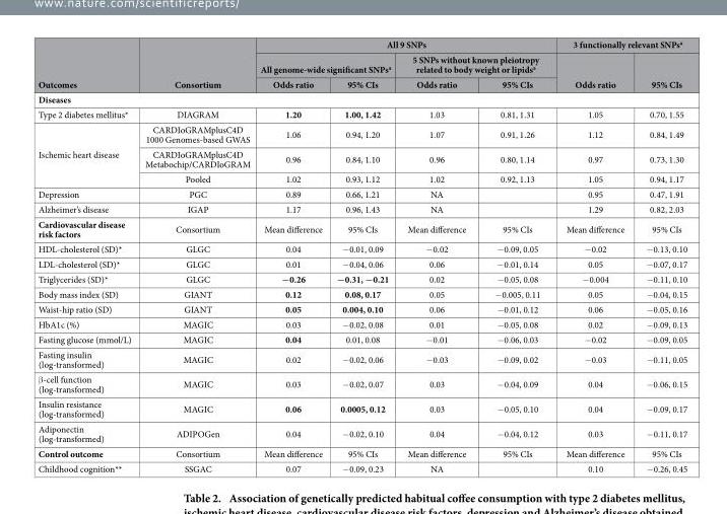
<table><thead><tr><td rowspan="3">Outcomes</td><td rowspan="3">Consortium</td><td colspan="4">All 9 SNPs</td><td colspan="2">3 functionally relevant SNPs<sup>a</sup></td></tr><tr><td colspan="2">All genome-wide significant SNPs<sup>a</sup></td><td colspan="2">5 SNPs without known pleiotropy related to body weight or lipids<sup>a</sup></td><td rowspan="2">Odds ratio</td><td rowspan="2">95% CIs</td></tr><tr><td>Odds ratio</td><td>95% CIs</td><td>Odds ratio</td><td>95% CIs</td></tr></thead><tbody><tr><td colspan="8">Diseases</td></tr><tr><td>Type 2 diabetes mellitus*</td><td>DIAGRAM</td><td>1.20</td><td>1.00, 1.42</td><td>1.03</td><td>0.81, 1.31</td><td>1.05</td><td>0.70, 1.55</td></tr><tr><td rowspan="3">Ischemic heart disease</td><td>CARDIoGRAMplusC4D 1000 Genomes-based GWAS</td><td>1.06</td><td>0.94, 1.20</td><td>1.07</td><td>0.91, 1.26</td><td>1.12</td><td>0.84, 1.49</td></tr><tr><td>CARDIoGRAMplusC4D Metabochip/CARDIoGRAM</td><td>0.96</td><td>0.84, 1.10</td><td>0.96</td><td>0.80, 1.14</td><td>0.97</td><td>0.73, 1.30</td></tr><tr><td>Pooled</td><td>1.02</td><td>0.93, 1.12</td><td>1.02</td><td>0.92, 1.13</td><td>1.05</td><td>0.94, 1.17</td></tr><tr><td>Depression</td><td>PGC</td><td>0.89</td><td>0.66, 1.21</td><td>NA</td><td></td><td>0.95</td><td>0.47, 1.91</td></tr><tr><td>Alzheimer’s disease</td><td>IGAP</td><td>1.17</td><td>0.96, 1.43</td><td>NA</td><td></td><td>1.29</td><td>0.82, 2.03</td></tr><tr><td>Cardiovascular disease risk factors</td><td>Consortium</td><td>Mean difference</td><td>95% CIs</td><td>Mean difference</td><td>95% CIs</td><td>Mean difference</td><td>95% CIs</td></tr><tr><td>HDL-cholesterol (SD)*</td><td>GLGC</td><td>0.04</td><td>− 0.01, 0.09</td><td>− 0.02</td><td>− 0.09, 0.05</td><td>− 0.02</td><td>− 0.13, 0.10</td></tr><tr><td>LDL-cholesterol (SD)*</td><td>GLGC</td><td>0.01</td><td>− 0.04, 0.06</td><td>0.06</td><td>− 0.01, 0.14</td><td>0.05</td><td>− 0.07, 0.17</td></tr><tr><td>Triglycerides (SD)*</td><td>GLGC</td><td>−0.26</td><td>−0.31, −0.21</td><td>0.02</td><td>− 0.05, 0.08</td><td>− 0.004</td><td>− 0.11, 0.10</td></tr><tr><td>Body mass index (SD)</td><td>GIANT</td><td>0.12</td><td>0.08, 0.17</td><td>0.05</td><td>− 0.005, 0.11</td><td>0.05</td><td>− 0.04, 0.15</td></tr><tr><td>Waist-hip ratio (SD)</td><td>GIANT</td><td>0.05</td><td>0.004, 0.10</td><td>0.06</td><td>− 0.01, 0.12</td><td>0.06</td><td>− 0.05, 0.16</td></tr><tr><td>HbA1c (%)</td><td>MAGIC</td><td>0.03</td><td>− 0.02, 0.08</td><td>0.01</td><td>− 0.05, 0.08</td><td>0.02</td><td>− 0.09, 0.13</td></tr><tr><td>Fasting glucose (mmol/L)</td><td>MAGIC</td><td>0.04</td><td>0.01, 0.08</td><td>− 0.01</td><td>− 0.06, 0.03</td><td>− 0.02</td><td>− 0.09, 0.05</td></tr><tr><td>Fasting insulin (log-transformed)</td><td>MAGIC</td><td>0.02</td><td>− 0.02, 0.06</td><td>− 0.03</td><td>− 0.09, 0.02</td><td>− 0.03</td><td>− 0.11, 0.05</td></tr><tr><td>β -cell function (log-transformed)</td><td>MAGIC</td><td>0.03</td><td>− 0.02, 0.07</td><td>0.03</td><td>− 0.04, 0.09</td><td>0.04</td><td>− 0.06, 0.15</td></tr><tr><td>Insulin resistance (log-transformed)</td><td>MAGIC</td><td>0.06</td><td>0.0005, 0.12</td><td>0.03</td><td>− 0.05, 0.10</td><td>0.04</td><td>− 0.09, 0.17</td></tr><tr><td>Adiponectin (log-transformed)</td><td>ADIPOGen</td><td>0.04</td><td>− 0.02, 0.10</td><td>0.04</td><td>− 0.04, 0.12</td><td>0.03</td><td>− 0.11, 0.17</td></tr><tr><td>Control outcome</td><td>Consortium</td><td>Mean difference</td><td>95% CIs</td><td>Mean difference</td><td>95% CIs</td><td>Mean difference</td><td>95% CIs</td></tr><tr><td>Childhood cognition**</td><td>SSGAC</td><td>0.07</td><td>− 0.09, 0.23</td><td>NA</td><td></td><td>0.10</td><td>− 0.26, 0.45</td></tr></tbody></table>